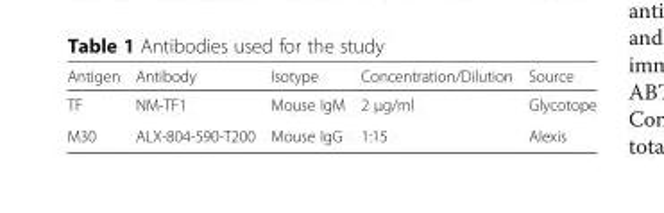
<table><thead><tr><td>Antigen</td><td>Antibody</td><td>Isotype</td><td>Concentration/Dilution</td><td>Source</td></tr></thead><tbody><tr><td>TF</td><td>NM-TF1</td><td>Mouse IgM</td><td>2 μg/ml</td><td>Glycotope</td></tr><tr><td>M30</td><td>ALX-804-590-T200</td><td>Mouse IgG</td><td>1:15</td><td>Alexis</td></tr></tbody></table>